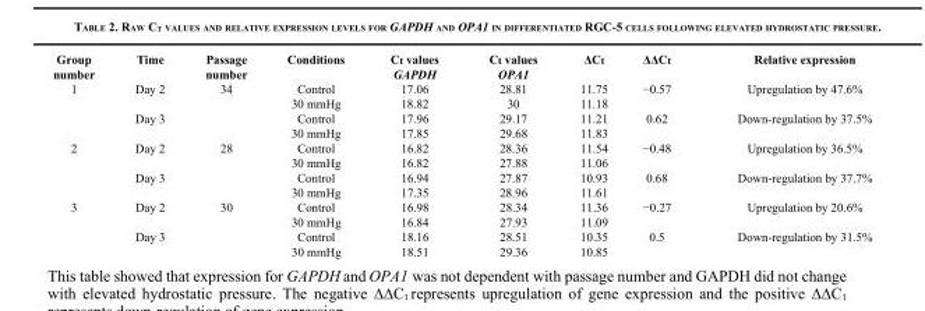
<table><thead><tr><td>Group number</td><td>Time</td><td>Passage number</td><td>Conditions</td><td>C<sub>t</sub> values GAPDH</td><td>C<sub>t</sub> values OPA1</td><td>ΔC<sub>t</sub></td><td>ΔΔC<sub>t</sub></td><td>Relative expression</td></tr></thead><tbody><tr><td rowspan="4">1</td><td>Day 2</td><td>34</td><td>Control</td><td>17.06</td><td>28.81</td><td>11.75</td><td>−0.57</td><td>Upregulation by 47.6%</td></tr><tr><td></td><td></td><td>30 mmHg</td><td>18.82</td><td>30</td><td>11.18</td><td></td><td></td></tr><tr><td>Day 3</td><td></td><td>Control</td><td>17.96</td><td>29.17</td><td>11.21</td><td>0.62</td><td>Down-regulation by 37.5%</td></tr><tr><td></td><td></td><td>30 mmHg</td><td>17.85</td><td>29.68</td><td>11.83</td><td></td><td></td></tr><tr><td rowspan="4">2</td><td>Day 2</td><td>28</td><td>Control</td><td>16.82</td><td>28.36</td><td>11.54</td><td>−0.48</td><td>Upregulation by 36.5%</td></tr><tr><td></td><td></td><td>30 mmHg</td><td>16.82</td><td>27.88</td><td>11.06</td><td></td><td></td></tr><tr><td>Day 3</td><td></td><td>Control</td><td>16.94</td><td>27.87</td><td>10.93</td><td>0.68</td><td>Down-regulation by 37.7%</td></tr><tr><td></td><td></td><td>30 mmHg</td><td>17.35</td><td>28.96</td><td>11.61</td><td></td><td></td></tr><tr><td rowspan="4">3</td><td>Day 2</td><td>30</td><td>Control</td><td>16.98</td><td>28.34</td><td>11.36</td><td>−0.27</td><td>Upregulation by 20.6%</td></tr><tr><td></td><td></td><td>30 mmHg</td><td>16.84</td><td>27.93</td><td>11.09</td><td></td><td></td></tr><tr><td>Day 3</td><td></td><td>Control</td><td>18.16</td><td>28.51</td><td>10.35</td><td>0.5</td><td>Down-regulation by 31.5%</td></tr><tr><td></td><td></td><td>30 mmHg</td><td>18.51</td><td>29.36</td><td>10.85</td><td></td><td></td></tr></tbody></table>